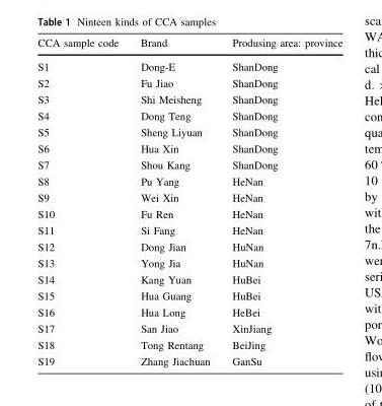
<table><thead><tr><td>CCA sample code</td><td>Brand</td><td>Produsing area: province</td></tr></thead><tbody><tr><td>S1</td><td>Dong-E</td><td>ShanDong</td></tr><tr><td>S2</td><td>Fu Jiao</td><td>ShanDong</td></tr><tr><td>S3</td><td>Shi Meisheng</td><td>ShanDong</td></tr><tr><td>S4</td><td>Dong Teng</td><td>ShanDong</td></tr><tr><td>S5</td><td>Sheng Liyuan</td><td>ShanDong</td></tr><tr><td>S6</td><td>Hua Xin</td><td>ShanDong</td></tr><tr><td>S7</td><td>Shou Kang</td><td>ShanDong</td></tr><tr><td>S8</td><td>Pu Yang</td><td>HeNan</td></tr><tr><td>S9</td><td>Wei Xin</td><td>HeNan</td></tr><tr><td>S10</td><td>Fu Ren</td><td>HeNan</td></tr><tr><td>S11</td><td>Si Fang</td><td>HeNan</td></tr><tr><td>S12</td><td>Dong Jian</td><td>HuNan</td></tr><tr><td>S13</td><td>Yong Jia</td><td>HuNan</td></tr><tr><td>S14</td><td>Kang Yuan</td><td>HuBei</td></tr><tr><td>S15</td><td>Hua Guang</td><td>HuBei</td></tr><tr><td>S16</td><td>Hua Long</td><td>HeBei</td></tr><tr><td>S17</td><td>San Jiao</td><td>XinJiang</td></tr><tr><td>S18</td><td>Tong Rentang</td><td>BeiJing</td></tr><tr><td>S19</td><td>Zhang Jiachuan</td><td>GanSu</td></tr></tbody></table>